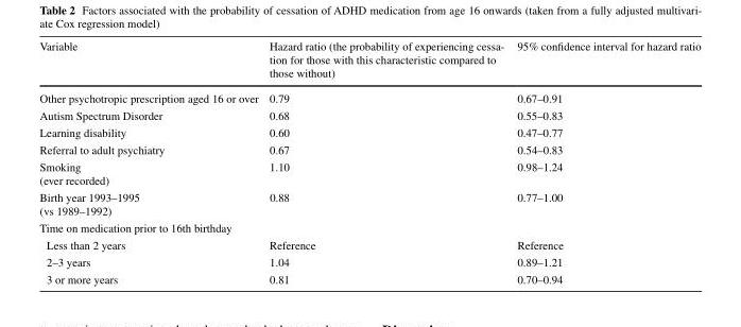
<table><thead><tr><td>Variable</td><td>Hazard ratio (the probability of experiencing cessa- tion for those with this characteristic compared to those without)</td><td>95% confidence interval for hazard ratio</td></tr></thead><tbody><tr><td>Other psychotropic prescription aged 16 or over</td><td>0.79</td><td>0.67–0.91</td></tr><tr><td>Autism Spectrum Disorder</td><td>0.68</td><td>0.55–0.83</td></tr><tr><td>Learning disability</td><td>0.60</td><td>0.47–0.77</td></tr><tr><td>Referral to adult psychiatry</td><td>0.67</td><td>0.54–0.83</td></tr><tr><td>Smoking (ever recorded)</td><td>1.10</td><td>0.98–1.24</td></tr><tr><td>Birth year 1993–1995 (vs 1989–1992)</td><td>0.88</td><td>0.77–1.00</td></tr><tr><td colspan="3">Time on medication prior to 16th birthday</td></tr><tr><td>Less than 2 years</td><td>Reference</td><td>Reference</td></tr><tr><td>2–3 years</td><td>1.04</td><td>0.89–1.21</td></tr><tr><td>3 or more years</td><td>0.81</td><td>0.70–0.94</td></tr></tbody></table>